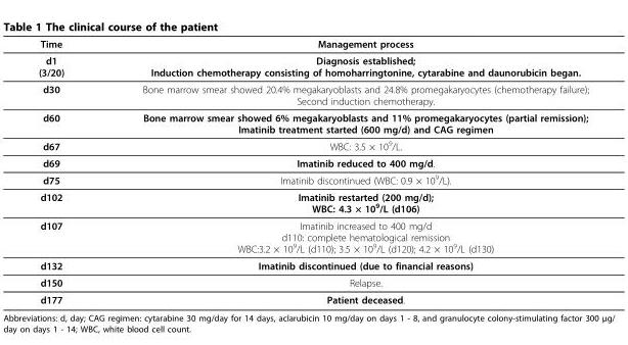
<table><thead><tr><td>Time</td><td>Management process</td></tr></thead><tbody><tr><td>d1 (3/20)</td><td>Diagnosis established; Induction chemotherapy consisting of homoharringtonine, cytarabine and daunorubicin began.</td></tr><tr><td>d30</td><td>Bone marrow smear showed 20.4% megakaryoblasts and 24.8% promegakaryocytes (chemotherapy failure); Second induction chemotherapy.</td></tr><tr><td>d60</td><td>Bone marrow smear showed 6% megakaryoblasts and 11% promegakaryocytes (partial remission); Imatinib treatment started (600 mg/d) and CAG regimen</td></tr><tr><td>d67</td><td>WBC: 3.5 × 10<sup>9</sup>/L.</td></tr><tr><td>d69</td><td>Imatinib reduced to 400 mg/d.</td></tr><tr><td>d75</td><td>Imatinib discontinued (WBC: 0.9 × 10<sup>9</sup>/L).</td></tr><tr><td>d102</td><td>Imatinib restarted (200 mg/d); WBC: 4.3 × 10<sup>9</sup>/L (d106)</td></tr><tr><td>d107</td><td>Imatinib increased to 400 mg/d d110: complete hematological remission WBC:3.2 × 10<sup>9</sup>/L (d110); 3.5 × 10<sup>9</sup>/L (d120); 4.2 × 10<sup>9</sup>/L (d130)</td></tr><tr><td>d132</td><td>Imatinib discontinued (due to financial reasons)</td></tr><tr><td>d150</td><td>Relapse.</td></tr><tr><td>d177</td><td>Patient deceased.</td></tr></tbody></table>